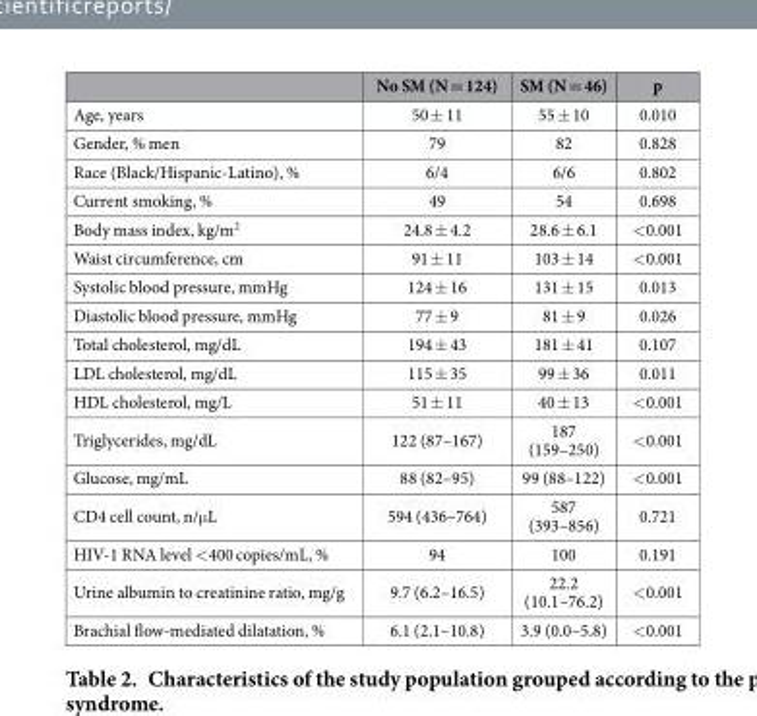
<table><thead><tr><td></td><td>No SM (N = 124)</td><td>SM (N = 46)</td><td>p</td></tr></thead><tbody><tr><td>Age, years</td><td>50 ± 11</td><td>55 ± 10</td><td>0.010</td></tr><tr><td>Gender, % men</td><td>79</td><td>82</td><td>0.828</td></tr><tr><td>Race (Black/Hispanic-Latino), %</td><td>6/4</td><td>6/6</td><td>0.802</td></tr><tr><td>Current smoking, %</td><td>49</td><td>54</td><td>0.698</td></tr><tr><td>Body mass index, kg/m<sup>2</sup></td><td>24.8 ± 4.2</td><td>28.6 ± 6.1</td><td>&lt; 0.001</td></tr><tr><td>Waist circumference, cm</td><td>91 ± 11</td><td>103 ± 14</td><td>&lt; 0.001</td></tr><tr><td>Systolic blood pressure, mmHg</td><td>124 ± 16</td><td>131 ± 15</td><td>0.013</td></tr><tr><td>Diastolic blood pressure, mmHg</td><td>77 ± 9</td><td>81 ± 9</td><td>0.026</td></tr><tr><td>Total cholesterol, mg/dL</td><td>194 ± 43</td><td>181 ± 41</td><td>0.107</td></tr><tr><td>LDL cholesterol, mg/dL</td><td>115 ± 35</td><td>99 ± 36</td><td>0.011</td></tr><tr><td>HDL cholesterol, mg/L</td><td>51 ± 11</td><td>40 ± 13</td><td>&lt; 0.001</td></tr><tr><td>Triglycerides, mg/dL</td><td>122 (87–167)</td><td>187 (159–250)</td><td>&lt; 0.001</td></tr><tr><td>Glucose, mg/mL</td><td>88 (82–95)</td><td>99 (88–122)</td><td>&lt; 0.001</td></tr><tr><td>CD4 cell count, n/μ L</td><td>594 (436–764)</td><td>587 (393–856)</td><td>0.721</td></tr><tr><td>HIV-1 RNA level &lt; 400 copies/mL, %</td><td>94</td><td>100</td><td>0.191</td></tr><tr><td>Urine albumin to creatinine ratio, mg/g</td><td>9.7 (6.2–16.5)</td><td>22.2 (10.1–76.2)</td><td>&lt; 0.001</td></tr><tr><td>Brachial flow-mediated dilatation, %</td><td>6.1 (2.1–10.8)</td><td>3.9 (0.0–5.8)</td><td>&lt; 0.001</td></tr></tbody></table>